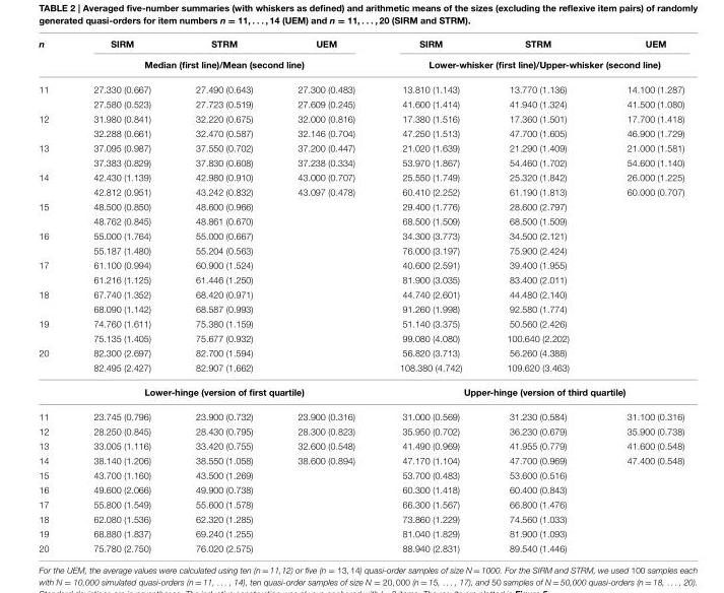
<table><thead><tr><td rowspan="2">n</td><td>SIRM</td><td>STRM</td><td>UEM</td><td>SIRM</td><td>STRM</td><td>UEM</td></tr><tr><td colspan="3">Median (first line)/Mean (second line)</td><td colspan="3">Lower-whisker (first line)/Upper-whisker (second line)</td></tr></thead><tbody><tr><td rowspan="2">11</td><td>27.330 (0.667)</td><td>27.490 (0.643)</td><td>27.300 (0.483)</td><td>13.810 (1.143)</td><td>13.770 (1.136)</td><td>14.100 (1.287)</td></tr><tr><td>27.580 (0.523)</td><td>27.723 (0.519)</td><td>27.609 (0.245)</td><td>41.600 (1.414)</td><td>41.940 (1.324)</td><td>41.500 (1.080)</td></tr><tr><td rowspan="2">12</td><td>31.980 (0.841)</td><td>32.220 (0.675)</td><td>32.000 (0.816)</td><td>17.380 (1.516)</td><td>17.360 (1.501)</td><td>17.700 (1.418)</td></tr><tr><td>32.288 (0.661)</td><td>32.470 (0.587)</td><td>32.146 (0.704)</td><td>47.250 (1.513)</td><td>47.700 (1.605)</td><td>46.900 (1.729)</td></tr><tr><td rowspan="2">13</td><td>37.095 (0.987)</td><td>37.550 (0.702)</td><td>37.200 (0.447)</td><td>21.020 (1.639)</td><td>21.290 (1.409)</td><td>21.000 (1.581)</td></tr><tr><td>37.383 (0.829)</td><td>37.830 (0.608)</td><td>37.238 (0.334)</td><td>53.970 (1.867)</td><td>54.460 (1.702)</td><td>54.600 (1.140)</td></tr><tr><td rowspan="2">14</td><td>42.430 (1.139)</td><td>42.980 (0.910)</td><td>43.000 (0.707)</td><td>25.550 (1.749)</td><td>25.320 (1.842)</td><td>26.000 (1.225)</td></tr><tr><td>42.812 (0.951)</td><td>43.242 (0.832)</td><td>43.097 (0.478)</td><td>60.410 (2.252)</td><td>61.190 (1.813)</td><td>60.000 (0.707)</td></tr><tr><td rowspan="2">15</td><td>48.500 (0.850)</td><td>48.600 (0.966)</td><td></td><td>29.400 (1.776)</td><td>28.600 (2.797)</td><td></td></tr><tr><td>48.762 (0.845)</td><td>48.861 (0.670)</td><td></td><td>68.500 (1.509)</td><td>68.500 (1.509)</td><td></td></tr><tr><td rowspan="2">16</td><td>55.000 (1.764)</td><td>55.000 (0.667)</td><td></td><td>34.300 (3.773)</td><td>34.500 (2.121)</td><td></td></tr><tr><td>55.187 (1.480)</td><td>55.204 (0.563)</td><td></td><td>76.000 (3.197)</td><td>75.900 (2.424)</td><td></td></tr><tr><td rowspan="2">17</td><td>61.100 (0.994)</td><td>60.900 (1.524)</td><td></td><td>40.600 (2.591)</td><td>39.400 (1.955)</td><td></td></tr><tr><td>61.216 (1.125)</td><td>61.446 (1.250)</td><td></td><td>81.900 (3.035)</td><td>83.400 (2.011)</td><td></td></tr><tr><td rowspan="2">18</td><td>67.740 (1.352)</td><td>68.420 (0.971)</td><td></td><td>44.740 (2.601)</td><td>44.480 (2.140)</td><td></td></tr><tr><td>68.090 (1.142)</td><td>68.587 (0.993)</td><td></td><td>91.260 (1.998)</td><td>92.580 (1.774)</td><td></td></tr><tr><td rowspan="2">19</td><td>74.760 (1.611)</td><td>75.380 (1.159)</td><td></td><td>51.140 (3.375)</td><td>50.560 (2.426)</td><td></td></tr><tr><td>75.135 (1.405)</td><td>75.677 (0.932)</td><td></td><td>99.080 (4.080)</td><td>100.640 (2.202)</td><td></td></tr><tr><td rowspan="3">20</td><td>82.300 (2.697)</td><td>82.700 (1.594)</td><td></td><td>56.820 (3.713)</td><td>56.260 (4.388)</td><td></td></tr><tr><td>82.495 (2.427)</td><td>82.907 (1.662)</td><td></td><td>108.380 (4.742)</td><td>109.620 (3.463)</td><td></td></tr><tr><td colspan="3">Lower-hinge (version of first quartile)</td><td colspan="3">Upper-hinge (version of third quartile)</td></tr><tr><td>11</td><td>23.745 (0.796)</td><td>23.900 (0.732)</td><td>23.900 (0.316)</td><td>31.000 (0.569)</td><td>31.230 (0.584)</td><td>31.100 (0.316)</td></tr><tr><td>12</td><td>28.250 (0.845)</td><td>28.430 (0.795)</td><td>28.300 (0.823)</td><td>35.950 (0.702)</td><td>36.230 (0.679)</td><td>35.900 (0.738)</td></tr><tr><td>13</td><td>33.005 (1.116)</td><td>33.420 (0.755)</td><td>32.600 (0.548)</td><td>41.490 (0.969)</td><td>41.955 (0.779)</td><td>41.600 (0.548)</td></tr><tr><td>14</td><td>38.140 (1.206)</td><td>38.550 (1.058)</td><td>38.600 (0.894)</td><td>47.170 (1.104)</td><td>47.700 (0.969)</td><td>47.400 (0.548)</td></tr><tr><td>15</td><td>43.700 (1.160)</td><td>43.500 (1.269)</td><td></td><td>53.700 (0.483)</td><td>53.600 (0.516)</td><td></td></tr><tr><td>16</td><td>49.600 (2.066)</td><td>49.900 (0.738)</td><td></td><td>60.300 (1.418)</td><td>60.400 (0.843)</td><td></td></tr><tr><td>17</td><td>55.800 (1.549)</td><td>55.600 (1.578)</td><td></td><td>66.300 (1.567)</td><td>66.800 (1.476)</td><td></td></tr><tr><td>18</td><td>62.080 (1.536)</td><td>62.320 (1.285)</td><td></td><td>73.860 (1.229)</td><td>74.560 (1.033)</td><td></td></tr><tr><td>19</td><td>68.880 (1.837)</td><td>69.240 (1.255)</td><td></td><td>81.040 (1.829)</td><td>81.900 (1.093)</td><td></td></tr><tr><td>20</td><td>75.780 (2.750)</td><td>76.020 (2.575)</td><td></td><td>88.940 (2.831)</td><td>89.540 (1.446)</td><td></td></tr></tbody></table>